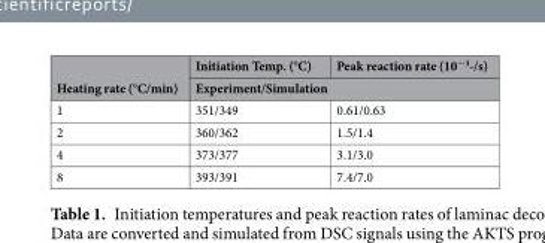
<table><thead><tr><td rowspan="2">Heating rate (°C/min)</td><td>Initiation Temp. (°C)</td><td>Peak reaction rate (10<sup>−3</sup>-/s)</td></tr><tr><td colspan="2">Experiment/Simulation</td></tr></thead><tbody><tr><td>1</td><td>351/349</td><td>0.61/0.63</td></tr><tr><td>2</td><td>360/362</td><td>1.5/1.4</td></tr><tr><td>4</td><td>373/377</td><td>3.1/3.0</td></tr><tr><td>8</td><td>393/391</td><td>7.4/7.0</td></tr></tbody></table>